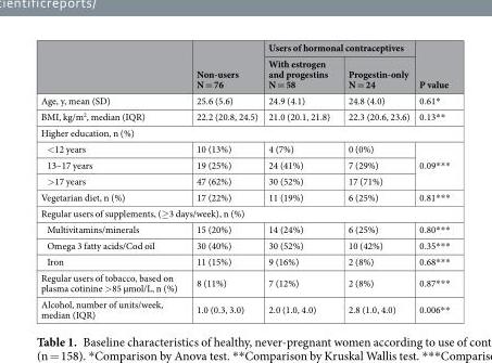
<table><thead><tr><td rowspan="2"></td><td rowspan="2">Non-users N = 76</td><td colspan="2">Users of hormonal contraceptives</td><td rowspan="2">P value</td></tr><tr><td>With estrogen and progestins N = 58</td><td>Progestin-only N = 24</td></tr></thead><tbody><tr><td>Age, y, mean (SD)</td><td>25.6 (5.6)</td><td>24.9 (4.1)</td><td>24.8 (4.0)</td><td>0.61*</td></tr><tr><td>BMI, kg/m<sup>2</sup>, median (IQR)</td><td>22.2 (20.8, 24.5)</td><td>21.0 (20.1, 21.8)</td><td>22.3 (20.6, 23.6)</td><td>0.13**</td></tr><tr><td colspan="5">Higher education, n (%)</td></tr><tr><td>&lt;12 years</td><td>10 (13%)</td><td>4 (7%)</td><td>0 (0%)</td><td rowspan="3">0.09***</td></tr><tr><td>13–17 years</td><td>19 (25%)</td><td>24 (41%)</td><td>7 (29%)</td></tr><tr><td>&gt;17 years</td><td>47 (62%)</td><td>30 (52%)</td><td>17 (71%)</td></tr><tr><td>Vegetarian diet, n (%)</td><td>17 (22%)</td><td>11 (19%)</td><td>6 (25%)</td><td>0.81***</td></tr><tr><td colspan="5">Regular users of supplements, (≥3 days/week), n (%)</td></tr><tr><td>Multivitamins/minerals</td><td>15 (20%)</td><td>14 (24%)</td><td>6 (25%)</td><td>0.80***</td></tr><tr><td>Omega 3 fatty acids/Cod oil</td><td>30 (40%)</td><td>30 (52%)</td><td>10 (42%)</td><td>0.35***</td></tr><tr><td>Iron</td><td>11 (15%)</td><td>9 (16%)</td><td>2 (8%)</td><td>0.68***</td></tr><tr><td>Regular users of tobacco, based on plasma cotinine &gt;85 µmol/L, n (%)</td><td>8 (11%)</td><td>7 (12%)</td><td>2 (8%)</td><td>0.87***</td></tr><tr><td>Alcohol, number of units/week, median (IQR)</td><td>1.0 (0.3, 3.0)</td><td>2.0 (1.0, 4.0)</td><td>2.8 (1.0, 4.0)</td><td>0.006**</td></tr></tbody></table>